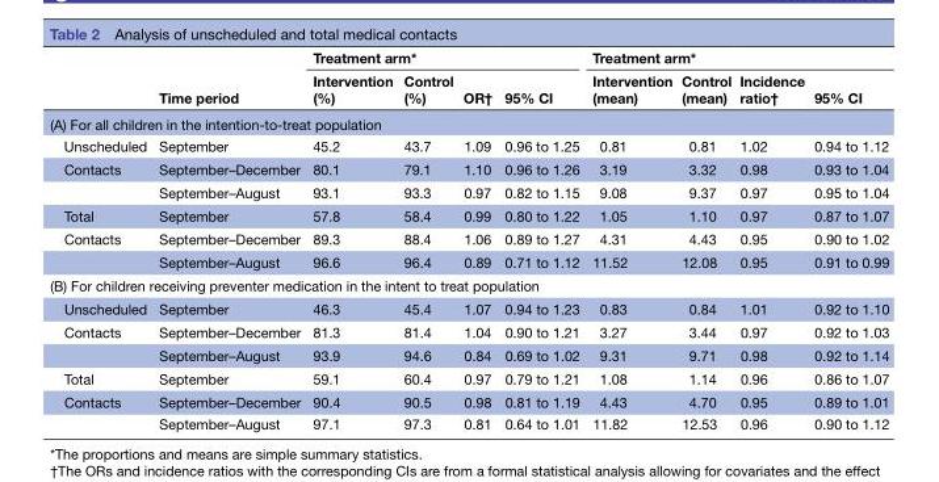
<table><thead><tr><td rowspan="2"></td><td rowspan="2">Time period</td><td colspan="4">Treatment arm*</td><td colspan="4">Treatment arm*</td></tr><tr><td>Intervention (%)</td><td>Control (%)</td><td>OR†</td><td>95% CI</td><td>Intervention (mean)</td><td>Control (mean)</td><td>Incidence ratio†</td><td>95% CI</td></tr></thead><tbody><tr><td colspan="10">(A) For all children in the intention-to-treat population</td></tr><tr><td>Unscheduled</td><td>September</td><td>45.2</td><td>43.7</td><td>1.09</td><td>0.96 to 1.25</td><td>0.81</td><td>0.81</td><td>1.02</td><td>0.94 to 1.12</td></tr><tr><td rowspan="2">Contacts</td><td>September–December</td><td>80.1</td><td>79.1</td><td>1.10</td><td>0.96 to 1.26</td><td>3.19</td><td>3.32</td><td>0.98</td><td>0.93 to 1.04</td></tr><tr><td>September–August</td><td>93.1</td><td>93.3</td><td>0.97</td><td>0.82 to 1.15</td><td>9.08</td><td>9.37</td><td>0.97</td><td>0.95 to 1.04</td></tr><tr><td>Total</td><td>September</td><td>57.8</td><td>58.4</td><td>0.99</td><td>0.80 to 1.22</td><td>1.05</td><td>1.10</td><td>0.97</td><td>0.87 to 1.07</td></tr><tr><td rowspan="2">Contacts</td><td>September–December</td><td>89.3</td><td>88.4</td><td>1.06</td><td>0.89 to 1.27</td><td>4.31</td><td>4.43</td><td>0.95</td><td>0.90 to 1.02</td></tr><tr><td>September–August</td><td>96.6</td><td>96.4</td><td>0.89</td><td>0.71 to 1.12</td><td>11.52</td><td>12.08</td><td>0.95</td><td>0.91 to 0.99</td></tr><tr><td colspan="10">(B) For children receiving preventer medication in the intent to treat population</td></tr><tr><td>Unscheduled</td><td>September</td><td>46.3</td><td>45.4</td><td>1.07</td><td>0.94 to 1.23</td><td>0.83</td><td>0.84</td><td>1.01</td><td>0.92 to 1.10</td></tr><tr><td rowspan="2">Contacts</td><td>September–December</td><td>81.3</td><td>81.4</td><td>1.04</td><td>0.90 to 1.21</td><td>3.27</td><td>3.44</td><td>0.97</td><td>0.92 to 1.03</td></tr><tr><td>September–August</td><td>93.9</td><td>94.6</td><td>0.84</td><td>0.69 to 1.02</td><td>9.31</td><td>9.71</td><td>0.98</td><td>0.92 to 1.14</td></tr><tr><td>Total</td><td>September</td><td>59.1</td><td>60.4</td><td>0.97</td><td>0.79 to 1.21</td><td>1.08</td><td>1.14</td><td>0.96</td><td>0.86 to 1.07</td></tr><tr><td rowspan="2">Contacts</td><td>September–December</td><td>90.4</td><td>90.5</td><td>0.98</td><td>0.81 to 1.19</td><td>4.43</td><td>4.70</td><td>0.95</td><td>0.89 to 1.01</td></tr><tr><td>September–August</td><td>97.1</td><td>97.3</td><td>0.81</td><td>0.64 to 1.01</td><td>11.82</td><td>12.53</td><td>0.96</td><td>0.90 to 1.12</td></tr></tbody></table>